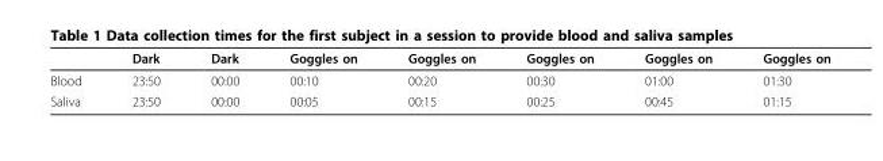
<table><thead><tr><td></td><td>Dark</td><td>Dark</td><td>Goggles on</td><td>Goggles on</td><td>Goggles on</td><td>Goggles on</td><td>Goggles on</td></tr></thead><tbody><tr><td>Blood</td><td>23:50</td><td>00:00</td><td>00:10</td><td>00:20</td><td>00:30</td><td>01:00</td><td>01:30</td></tr><tr><td>Saliva</td><td>23:50</td><td>00:00</td><td>00:05</td><td>00:15</td><td>00:25</td><td>00:45</td><td>01:15</td></tr></tbody></table>